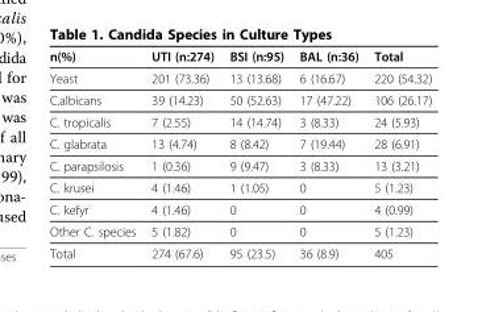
<table><thead><tr><td>n(%)</td><td>UTI (n:274)</td><td>BSI (n:95)</td><td>BAL (n:36)</td><td>Total</td></tr></thead><tbody><tr><td>Yeast</td><td>201 (73.36)</td><td>13 (13.68)</td><td>6 (16.67)</td><td>220 (54.32)</td></tr><tr><td>C.albicans</td><td>39 (14.23)</td><td>50 (52.63)</td><td>17 (47.22)</td><td>106 (26.17)</td></tr><tr><td>C. tropicalis</td><td>7 (2.55)</td><td>14 (14.74)</td><td>3 (8.33)</td><td>24 (5.93)</td></tr><tr><td>C. glabrata</td><td>13 (4.74)</td><td>8 (8.42)</td><td>7 (19.44)</td><td>28 (6.91)</td></tr><tr><td>C. parapsilosis</td><td>1 (0.36)</td><td>9 (9.47)</td><td>3 (8.33)</td><td>13 (3.21)</td></tr><tr><td>C. krusei</td><td>4 (1.46)</td><td>1 (1.05)</td><td>0</td><td>5 (1.23)</td></tr><tr><td>C. kefyr</td><td>4 (1.46)</td><td>0</td><td>0</td><td>4 (0.99)</td></tr><tr><td>Other C. species</td><td>5 (1.82)</td><td>0</td><td>0</td><td>5 (1.23)</td></tr><tr><td>Total</td><td>274 (67.6)</td><td>95 (23.5)</td><td>36 (8.9)</td><td>405</td></tr></tbody></table>